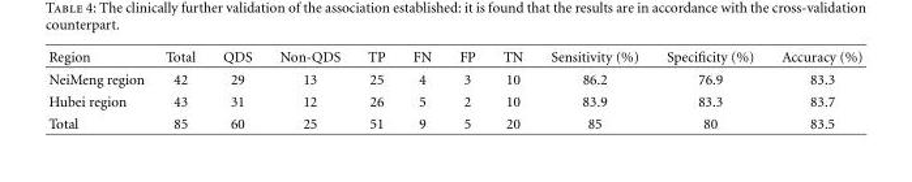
<table><thead><tr><td>Region</td><td>Total</td><td>QDS</td><td>Non-QDS</td><td>TP</td><td>FN</td><td>FP</td><td>TN</td><td>Sensitivity (%)</td><td>Specificity (%)</td><td>Accuracy (%)</td></tr></thead><tbody><tr><td>NeiMeng region</td><td>42</td><td>29</td><td>13</td><td>25</td><td>4</td><td>3</td><td>10</td><td>86.2</td><td>76.9</td><td>83.3</td></tr><tr><td>Hubei region</td><td>43</td><td>31</td><td>12</td><td>26</td><td>5</td><td>2</td><td>10</td><td>83.9</td><td>83.3</td><td>83.7</td></tr><tr><td>Total</td><td>85</td><td>60</td><td>25</td><td>51</td><td>9</td><td>5</td><td>20</td><td>85</td><td>80</td><td>83.5</td></tr></tbody></table>